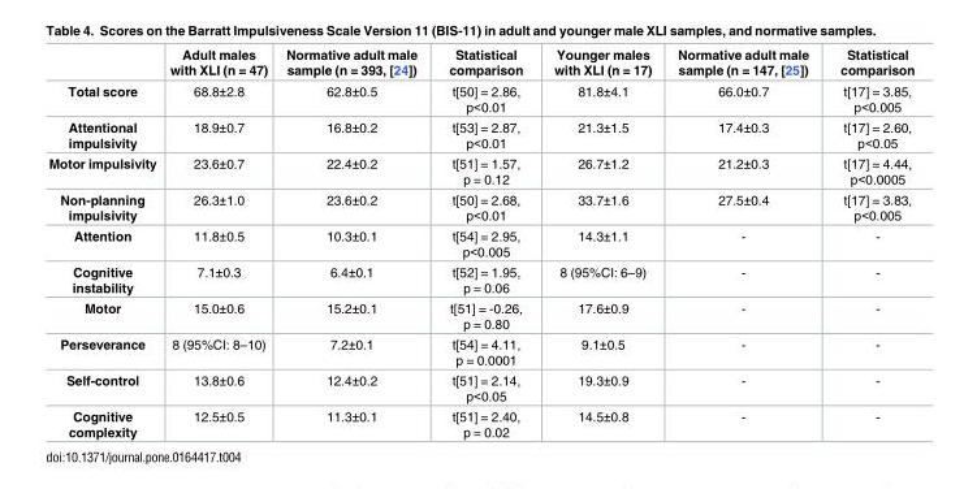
<table><thead><tr><td></td><td>Adult males with XLI (n = 47)</td><td>Normative adult male sample (n = 393, [24])</td><td>Statistical comparison</td><td>Younger males with XLI (n = 17)</td><td>Normative adult male sample (n = 147, [25])</td><td>Statistical comparison</td></tr></thead><tbody><tr><td>Total score</td><td>68.8±2.8</td><td>62.8±0.5</td><td>t[50] = 2.86, p&lt;0.01</td><td>81.8±4.1</td><td>66.0±0.7</td><td>t[17] = 3.85, p&lt;0.005</td></tr><tr><td>Attentional impulsivity</td><td>18.9±0.7</td><td>16.8±0.2</td><td>t[53] = 2.87, p&lt;0.01</td><td>21.3±1.5</td><td>17.4±0.3</td><td>t[17] = 2.60, p&lt;0.05</td></tr><tr><td>Motor impulsivity</td><td>23.6±0.7</td><td>22.4±0.2</td><td>t[51] = 1.57, p = 0.12</td><td>26.7±1.2</td><td>21.2±0.3</td><td>t[17] = 4.44, p&lt;0.0005</td></tr><tr><td>Non-planning impulsivity</td><td>26.3±1.0</td><td>23.6±0.2</td><td>t[50] = 2.68, p&lt;0.01</td><td>33.7±1.6</td><td>27.5±0.4</td><td>t[17] = 3.83, p&lt;0.005</td></tr><tr><td>Attention</td><td>11.8±0.5</td><td>10.3±0.1</td><td>t[54] = 2.95, p&lt;0.005</td><td>14.3±1.1</td><td>-</td><td>-</td></tr><tr><td>Cognitive instability</td><td>7.1±0.3</td><td>6.4±0.1</td><td>t[52] = 1.95, p = 0.06</td><td>8 (95%CI: 6–9)</td><td>-</td><td>-</td></tr><tr><td>Motor</td><td>15.0±0.6</td><td>15.2±0.1</td><td>t[51] = -0.26, p = 0.80</td><td>17.6±0.9</td><td>-</td><td>-</td></tr><tr><td>Perseverance</td><td>8 (95%CI: 8–10)</td><td>7.2±0.1</td><td>t[54] = 4.11, p = 0.0001</td><td>9.1±0.5</td><td>-</td><td>-</td></tr><tr><td>Self-control</td><td>13.8±0.6</td><td>12.4±0.2</td><td>t[51] = 2.14, p&lt;0.05</td><td>19.3±0.9</td><td>-</td><td>-</td></tr><tr><td>Cognitive complexity</td><td>12.5±0.5</td><td>11.3±0.1</td><td>t[51] = 2.40, p = 0.02</td><td>14.5±0.8</td><td>-</td><td>-</td></tr></tbody></table>